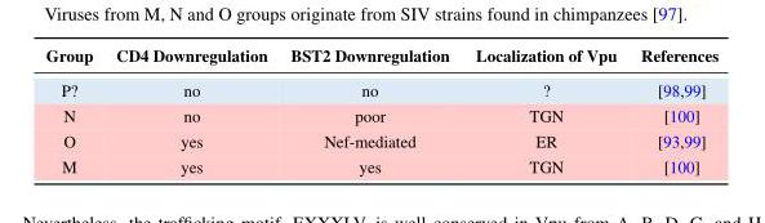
<table><thead><tr><td>Group</td><td>CD4 Downregulation</td><td>BST2 Downregulation</td><td>Localization of Vpu</td><td>References</td></tr></thead><tbody><tr><td>P?</td><td>no</td><td>no</td><td>?</td><td>[98,99]</td></tr><tr><td>N</td><td>no</td><td>poor</td><td>TGN</td><td>[100]</td></tr><tr><td>O</td><td>yes</td><td>Nef-mediated</td><td>ER</td><td>[93,99]</td></tr><tr><td>M</td><td>yes</td><td>yes</td><td>TGN</td><td>[100]</td></tr></tbody></table>